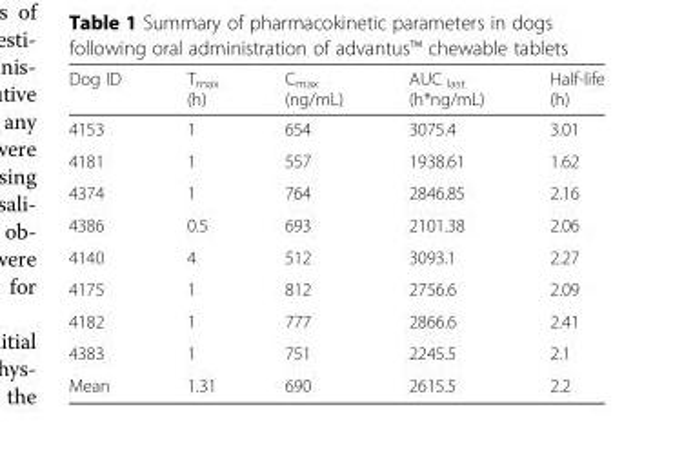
<table><thead><tr><td>Dog ID</td><td>T<sub>max</sub> (h)</td><td>C<sub>max</sub> (ng/mL)</td><td>AUC <sub>last</sub> (h*ng/mL)</td><td>Half-life (h)</td></tr></thead><tbody><tr><td>4153</td><td>1</td><td>654</td><td>3075.4</td><td>3.01</td></tr><tr><td>4181</td><td>1</td><td>557</td><td>1938.61</td><td>1.62</td></tr><tr><td>4374</td><td>1</td><td>764</td><td>2846.85</td><td>2.16</td></tr><tr><td>4386</td><td>0.5</td><td>693</td><td>2101.38</td><td>2.06</td></tr><tr><td>4140</td><td>4</td><td>512</td><td>3093.1</td><td>2.27</td></tr><tr><td>4175</td><td>1</td><td>812</td><td>2756.6</td><td>2.09</td></tr><tr><td>4182</td><td>1</td><td>777</td><td>2866.6</td><td>2.41</td></tr><tr><td>4383</td><td>1</td><td>751</td><td>2245.5</td><td>2.1</td></tr><tr><td>Mean</td><td>1.31</td><td>690</td><td>2615.5</td><td>2.2</td></tr></tbody></table>